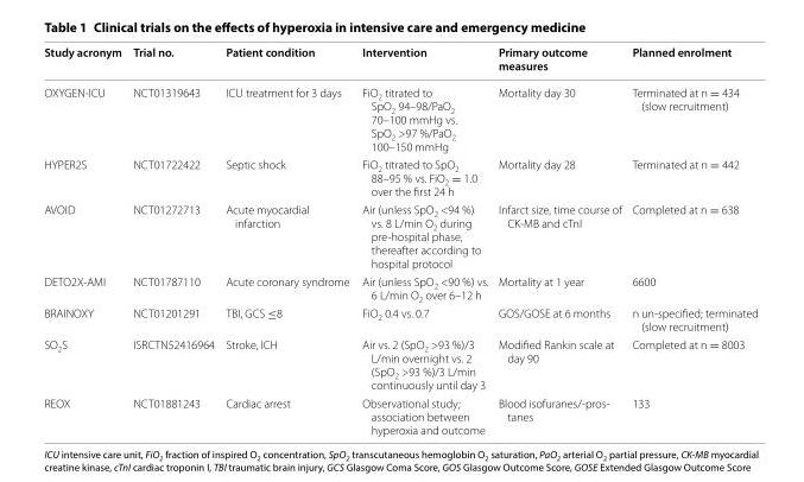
<table><thead><tr><td>Study acronym</td><td>Trial no.</td><td>Patient condition</td><td>Intervention</td><td>Primary outcome measures</td><td>Planned enrolment</td></tr></thead><tbody><tr><td>OXYGEN-ICU</td><td>NCT01319643</td><td>ICU treatment for 3 days</td><td>FiO<sub>2</sub> titrated to SpO<sub>2</sub> 94–98/PaO<sub>2</sub> 70–100 mmHg vs. SpO<sub>2</sub> &gt;97 %/PaO<sub>2</sub> 100–150 mmHg</td><td>Mortality day 30</td><td>Terminated at n = 434 (slow recruitment)</td></tr><tr><td>HYPER2S</td><td>NCT01722422</td><td>Septic shock</td><td>FiO<sub>2</sub> titrated to SpO<sub>2</sub> 88–95 % vs. FiO<sub>2</sub> = 1.0 over the first 24 h</td><td>Mortality day 28</td><td>Terminated at n = 442</td></tr><tr><td>AVOID</td><td>NCT01272713</td><td>Acute myocardial infarction</td><td>Air (unless SpO<sub>2</sub> &lt;94 %) vs. 8 L/min O<sub>2</sub> during pre-hospital phase, thereafter according to hospital protocol</td><td>Infarct size, time course of CK-MB and cTnI</td><td>Completed at n = 638</td></tr><tr><td>DETO2X-AMI</td><td>NCT01787110</td><td>Acute coronary syndrome</td><td>Air (unless SpO<sub>2</sub> &lt;90 %) vs. 6 L/min O<sub>2</sub> over 6–12 h</td><td>Mortality at 1 year</td><td>6600</td></tr><tr><td>BRAINOXY</td><td>NCT01201291</td><td>TBI, GCS ≤8</td><td>FiO<sub>2</sub> 0.4 vs. 0.7</td><td>GOS/GOSE at 6 months</td><td>n un-specified; terminated (slow recruitment)</td></tr><tr><td>SO<sub>2</sub>S</td><td>ISRCTN52416964</td><td>Stroke, ICH</td><td>Air vs. 2 (SpO<sub>2</sub> &gt;93 %)/3 L/min overnight vs. 2 (SpO<sub>2</sub> &gt;93 %)/3 L/min continuously until day 3</td><td>Modified Rankin scale at day 90</td><td>Completed at n = 8003</td></tr><tr><td>REOX</td><td>NCT01881243</td><td>Cardiac arrest</td><td>Observational study; association between hyperoxia and outcome</td><td>Blood isofuranes/-pros- tanes</td><td>133</td></tr></tbody></table>